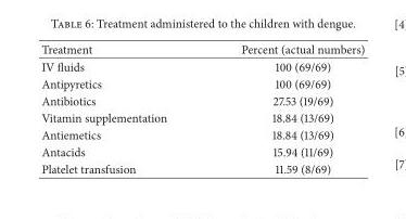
<table><thead><tr><td>Treatment</td><td>Percent (actual numbers)</td></tr></thead><tbody><tr><td>IV fluids</td><td>100 (69/69)</td></tr><tr><td>Antipyretics</td><td>100 (69/69)</td></tr><tr><td>Antibiotics</td><td>27.53 (19/69)</td></tr><tr><td>Vitamin supplementation</td><td>18.84 (13/69)</td></tr><tr><td>Antiemetics</td><td>18.84 (13/69)</td></tr><tr><td>Antacids</td><td>15.94 (11/69)</td></tr><tr><td>Platelet transfusion</td><td>11.59 (8/69)</td></tr></tbody></table>